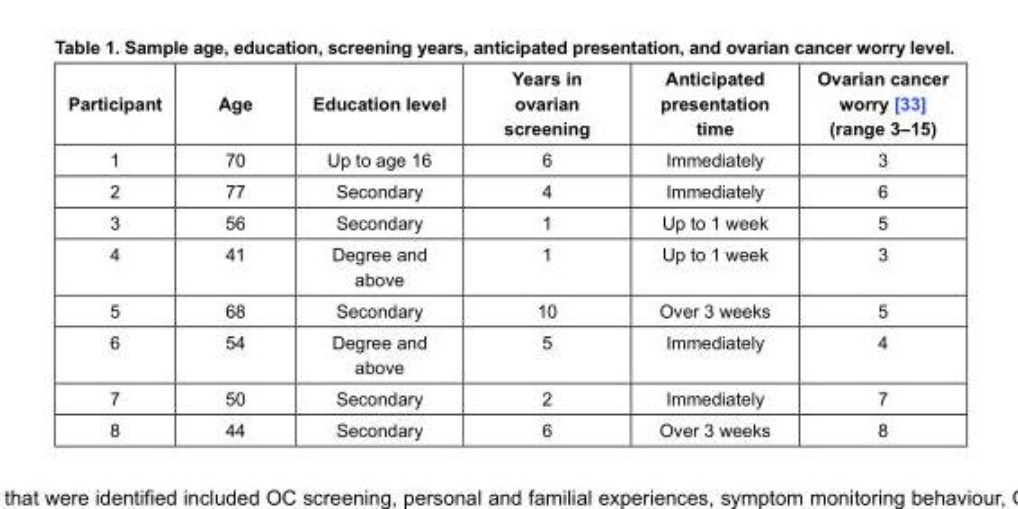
<table><thead><tr><td>Participant</td><td>Age</td><td>Education level</td><td>Years in ovarian screening</td><td>Anticipated presentation time</td><td>Ovarian cancer worry [33] (range 3–15)</td></tr></thead><tbody><tr><td>1</td><td>70</td><td>Up to age 16</td><td>6</td><td>Immediately</td><td>3</td></tr><tr><td>2</td><td>77</td><td>Secondary</td><td>4</td><td>Immediately</td><td>6</td></tr><tr><td>3</td><td>56</td><td>Secondary</td><td>1</td><td>Up to 1 week</td><td>5</td></tr><tr><td>4</td><td>41</td><td>Degree and above</td><td>1</td><td>Up to 1 week</td><td>3</td></tr><tr><td>5</td><td>68</td><td>Secondary</td><td>10</td><td>Over 3 weeks</td><td>5</td></tr><tr><td>6</td><td>54</td><td>Degree and above</td><td>5</td><td>Immediately</td><td>4</td></tr><tr><td>7</td><td>50</td><td>Secondary</td><td>2</td><td>Immediately</td><td>7</td></tr><tr><td>8</td><td>44</td><td>Secondary</td><td>6</td><td>Over 3 weeks</td><td>8</td></tr></tbody></table>